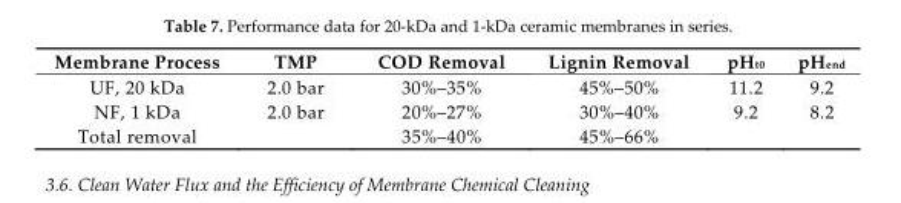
<table><thead><tr><td>Membrane Process</td><td>TMP</td><td>COD Removal</td><td>Lignin Removal</td><td>pH<sub>t0</sub></td><td>pH<sub>end</sub></td></tr></thead><tbody><tr><td>UF, 20 kDa</td><td>2.0 bar</td><td>30%–35%</td><td>45%–50%</td><td>11.2</td><td>9.2</td></tr><tr><td>NF, 1 kDa</td><td>2.0 bar</td><td>20%–27%</td><td>30%–40%</td><td>9.2</td><td>8.2</td></tr><tr><td>Total removal</td><td></td><td>35%–40%</td><td>45%–66%</td><td></td><td></td></tr></tbody></table>